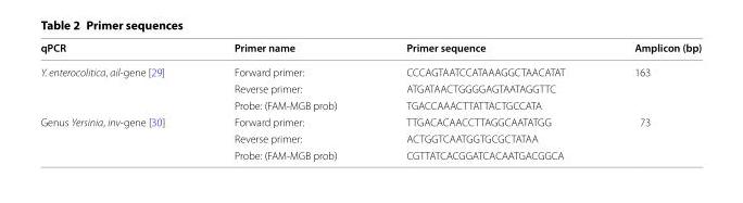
<table><thead><tr><td>qPCR</td><td>Primer name</td><td>Primer sequence</td><td>Amplicon (bp)</td></tr></thead><tbody><tr><td rowspan="3">Y. enterocolitica, ail-gene [29]</td><td>Forward primer:</td><td>CCC AGT AAT CCA TAA AGG CTA ACA TAT</td><td rowspan="3">163</td></tr><tr><td>Reverse primer:</td><td>ATG ATA ACT GGG GAG TAA TAG GTT C</td></tr><tr><td>Probe: (FAM-MGB prob)</td><td>TGA CCA AAC TTA TTA CTG CCATA</td></tr><tr><td rowspan="3">Genus Yersinia, inv-gene [30]</td><td>Forward primer:</td><td>TTG ACA CAA CCT TAG GCA ATA TGG</td><td rowspan="3">73</td></tr><tr><td>Reverse primer:</td><td>ACT GGT CAA TGG TGC GCT ATAA</td></tr><tr><td>Probe: (FAM-MGB prob)</td><td>CGT TAT CAC GGA TCA CAA TGA CGG CA</td></tr></tbody></table>